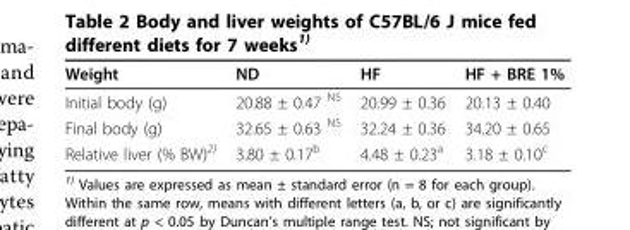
<table><thead><tr><td>Weight</td><td>ND</td><td>HF</td><td>HF + BRE 1%</td></tr></thead><tbody><tr><td>Initial body (g)</td><td>20.88 ± 0.47 <sup>NS</sup></td><td>20.99 ± 0.36</td><td>20.13 ± 0.40</td></tr><tr><td>Final body (g)</td><td>32.65 ± 0.63 <sup>NS</sup></td><td>32.24 ± 0.36</td><td>34.20 ± 0.65</td></tr><tr><td>Relative liver (% BW)<sup>2)</sup></td><td>3.80 ± 0.17<sup>b</sup></td><td>4.48 ± 0.23<sup>a</sup></td><td>3.18 ± 0.10<sup>c</sup></td></tr></tbody></table>